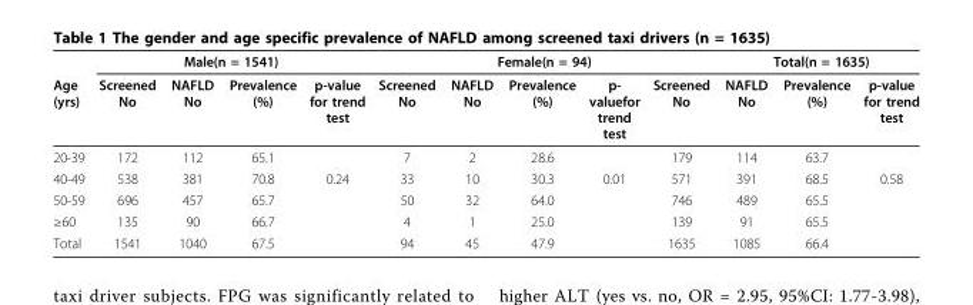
<table><thead><tr><td rowspan="2">Age (yrs)</td><td colspan="4">Male(n = 1541)</td><td colspan="5">Female(n = 94)</td><td colspan="3">Total(n = 1635)</td></tr><tr><td>Screened No</td><td>NAFLD No</td><td>Prevalence (%)</td><td>p-value for trend test</td><td>Screened No</td><td>NAFLD No</td><td>Prevalence (%)</td><td>p- valuefor trend test</td><td>Screened No</td><td>NAFLD No</td><td>Prevalence (%)</td><td>p-value for trend test</td></tr></thead><tbody><tr><td>20-39</td><td>172</td><td>112</td><td>65.1</td><td></td><td>7</td><td>2</td><td>28.6</td><td></td><td>179</td><td>114</td><td>63.7</td><td></td></tr><tr><td>40-49</td><td>538</td><td>381</td><td>70.8</td><td>0.24</td><td>33</td><td>10</td><td>30.3</td><td>0.01</td><td>571</td><td>391</td><td>68.5</td><td>0.58</td></tr><tr><td>50-59</td><td>696</td><td>457</td><td>65.7</td><td></td><td>50</td><td>32</td><td>64.0</td><td></td><td>746</td><td>489</td><td>65.5</td><td></td></tr><tr><td>≥60</td><td>135</td><td>90</td><td>66.7</td><td></td><td>4</td><td>1</td><td>25.0</td><td></td><td>139</td><td>91</td><td>65.5</td><td></td></tr><tr><td>Total</td><td>1541</td><td>1040</td><td>67.5</td><td></td><td>94</td><td>45</td><td>47.9</td><td></td><td>1635</td><td>1085</td><td>66.4</td><td></td></tr></tbody></table>